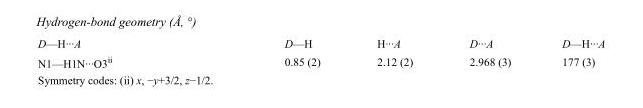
<table><tbody><tr><td>D—H···A</td><td>D—H</td><td>H···A</td><td>D···A</td><td>D—H···A</td></tr><tr><td>N1—H1N···O3<sup>ii</sup></td><td>0.85 (2)</td><td>2.12 (2)</td><td>2.968 (3)</td><td>177 (3)</td></tr></tbody></table>